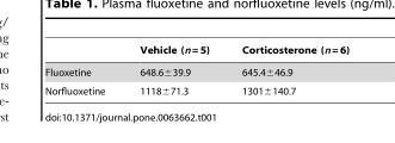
<table><thead><tr><td></td><td>Vehicle (n = 5)</td><td>Corticosterone (n = 6)</td></tr></thead><tbody><tr><td>Fluoxetine</td><td>648.6±39.9</td><td>645.4±46.9</td></tr><tr><td>Norfluoxetine</td><td>1118±71.3</td><td>1301±140.7</td></tr></tbody></table>